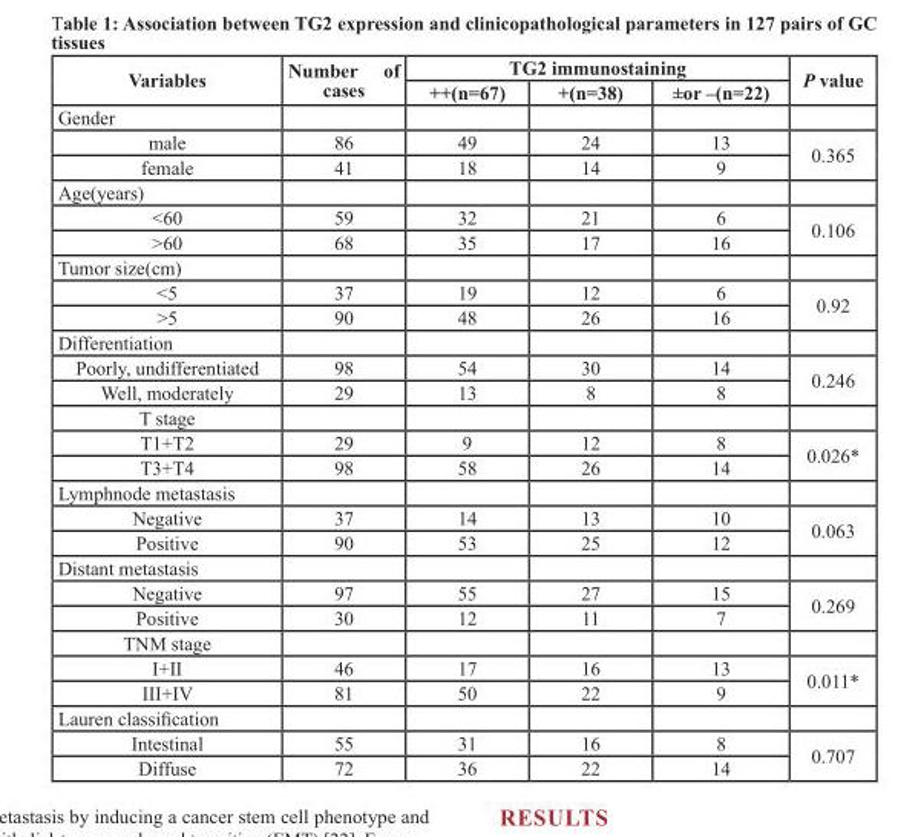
<table><thead><tr><td rowspan="2">Variables</td><td rowspan="2">Number of cases</td><td colspan="3">TG2 immunostaining</td><td rowspan="2">P value</td></tr><tr><td>++(n=67)</td><td>+(n=38)</td><td>±or –(n=22)</td></tr></thead><tbody><tr><td colspan="6">Gender</td></tr><tr><td>male</td><td>86</td><td>49</td><td>24</td><td>13</td><td rowspan="2">0.365</td></tr><tr><td>female</td><td>41</td><td>18</td><td>14</td><td>9</td></tr><tr><td colspan="6">Age(years)</td></tr><tr><td>&lt;60</td><td>59</td><td>32</td><td>21</td><td>6</td><td rowspan="2">0.106</td></tr><tr><td>&gt;60</td><td>68</td><td>35</td><td>17</td><td>16</td></tr><tr><td colspan="6">Tumor size(cm)</td></tr><tr><td>&lt;5</td><td>37</td><td>19</td><td>12</td><td>6</td><td rowspan="2">0.92</td></tr><tr><td>&gt;5</td><td>90</td><td>48</td><td>26</td><td>16</td></tr><tr><td colspan="6">Differentiation</td></tr><tr><td>Poorly, undifferentiated</td><td>98</td><td>54</td><td>30</td><td>14</td><td rowspan="2">0.246</td></tr><tr><td>Well, moderately</td><td>29</td><td>13</td><td>8</td><td>8</td></tr><tr><td colspan="6">T stage</td></tr><tr><td>T1+T2</td><td>29</td><td>9</td><td>12</td><td>8</td><td rowspan="2">0.026*</td></tr><tr><td>T3+T4</td><td>98</td><td>58</td><td>26</td><td>14</td></tr><tr><td colspan="6">Lymphnode metastasis</td></tr><tr><td>Negative</td><td>37</td><td>14</td><td>13</td><td>10</td><td rowspan="2">0.063</td></tr><tr><td>Positive</td><td>90</td><td>53</td><td>25</td><td>12</td></tr><tr><td colspan="6">Distant metastasis</td></tr><tr><td>Negative</td><td>97</td><td>55</td><td>27</td><td>15</td><td rowspan="2">0.269</td></tr><tr><td>Positive</td><td>30</td><td>12</td><td>11</td><td>7</td></tr><tr><td colspan="6">TNM stage</td></tr><tr><td>I+II</td><td>46</td><td>17</td><td>16</td><td>13</td><td rowspan="2">0.011*</td></tr><tr><td>III+IV</td><td>81</td><td>50</td><td>22</td><td>9</td></tr><tr><td colspan="6">Lauren classification</td></tr><tr><td>Intestinal</td><td>55</td><td>31</td><td>16</td><td>8</td><td rowspan="2">0.707</td></tr><tr><td>Diffuse</td><td>72</td><td>36</td><td>22</td><td>14</td></tr></tbody></table>